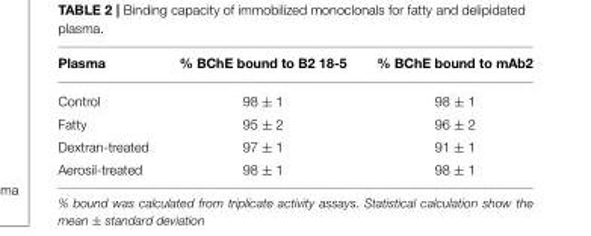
<table><thead><tr><td>Plasma</td><td>% BChE bound to B2 18-5</td><td>% BChE bound to mAb2</td></tr></thead><tbody><tr><td>Control</td><td>98 ± 1</td><td>98 ± 1</td></tr><tr><td>Fatty</td><td>95 ± 2</td><td>96 ± 2</td></tr><tr><td>Dextran-treated</td><td>97 ± 1</td><td>91 ± 1</td></tr><tr><td>Aerosil-treated</td><td>98 ± 1</td><td>98 ± 1</td></tr></tbody></table>